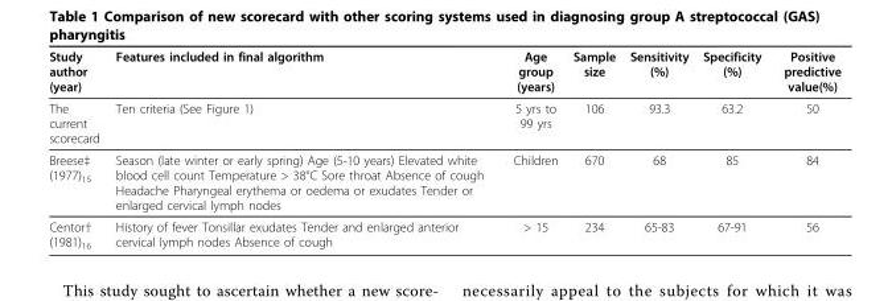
<table><thead><tr><td>Study author (year)</td><td>Features included in final algorithm</td><td>Age group (years)</td><td>Sample size</td><td>Sensitivity (%)</td><td>Specificity (%)</td><td>Positive predictive value(%)</td></tr></thead><tbody><tr><td>The current scorecard</td><td>Ten criteria (See Figure 1)</td><td>5 yrs to 99 yrs</td><td>106</td><td>93.3</td><td>63.2</td><td>50</td></tr><tr><td>Breese‡ (1977)<sub>15</sub></td><td>Season (late winter or early spring) Age (5-10 years) Elevated white blood cell count Temperature &gt; 38°C Sore throat Absence of cough Headache Pharyngeal erythema or oedema or exudates Tender or enlarged cervical lymph nodes</td><td>Children</td><td>670</td><td>68</td><td>85</td><td>84</td></tr><tr><td>Centor† (1981)<sub>16</sub></td><td>History of fever Tonsillar exudates Tender and enlarged anterior cervical lymph nodes Absence of cough</td><td>&gt; 15</td><td>234</td><td>65-83</td><td>67-91</td><td>56</td></tr></tbody></table>